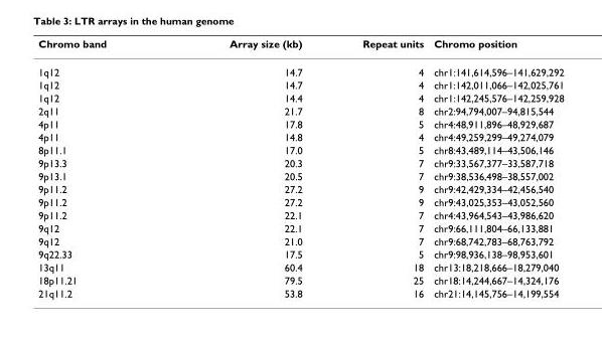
<table><thead><tr><td>Chromo band</td><td>Array size (kb)</td><td>Repeat units</td><td>Chromo position</td></tr></thead><tbody><tr><td>1q12</td><td>14.7</td><td>4</td><td>chr1:141,614,596–141,629,292</td></tr><tr><td>1q12</td><td>14.7</td><td>4</td><td>chr1:142,011,066–142,025,761</td></tr><tr><td>1q12</td><td>14.4</td><td>4</td><td>chr1:142,245,576–142,259,928</td></tr><tr><td>2q11</td><td>21.7</td><td>8</td><td>chr2:94,794,007–94,815,544</td></tr><tr><td>4p11</td><td>17.8</td><td>5</td><td>chr4:48,911,896–48,929,687</td></tr><tr><td>4p11</td><td>14.8</td><td>4</td><td>chr4:49,259,299–49,274,079</td></tr><tr><td>8p11.1</td><td>17.0</td><td>5</td><td>chr8:43,489,114–43,506,146</td></tr><tr><td>9p13.3</td><td>20.3</td><td>7</td><td>chr9:33,567,377–33,587,718</td></tr><tr><td>9p13.1</td><td>20.5</td><td>7</td><td>chr9:38,536,498–38,557,002</td></tr><tr><td>9p11.2</td><td>27.2</td><td>9</td><td>chr9:42,429,334–42,456,540</td></tr><tr><td>9p11.2</td><td>27.2</td><td>9</td><td>chr9:43,025,353–43,052,560</td></tr><tr><td>9p11.2</td><td>22.1</td><td>7</td><td>chr4:43,964,543–43,986,620</td></tr><tr><td>9q12</td><td>22.1</td><td>7</td><td>chr9:66,111,804–66,133,881</td></tr><tr><td>9q12</td><td>21.0</td><td>7</td><td>chr9:68,742,783–68,763,792</td></tr><tr><td>9q22.33</td><td>17.5</td><td>5</td><td>chr9:98,936,138–98,953,601</td></tr><tr><td>13q11</td><td>60.4</td><td>18</td><td>chr13:18,218,666–18,279,040</td></tr><tr><td>18p11.21</td><td>79.5</td><td>25</td><td>chr18:14,244,667–14,324,176</td></tr><tr><td>21q11.2</td><td>53.8</td><td>16</td><td>chr21:14,145,756–14,199,554</td></tr></tbody></table>